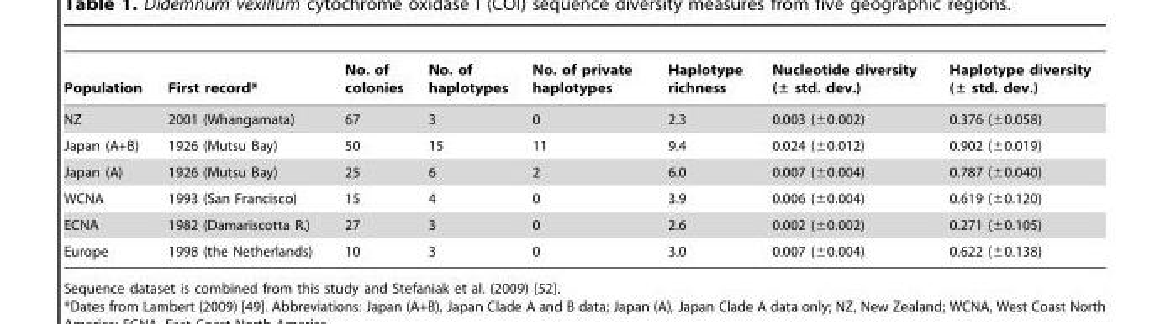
<table><thead><tr><td>Population</td><td>First record*</td><td>No. of colonies</td><td>No. of haplotypes</td><td>No. of private haplotypes</td><td>Haplotype richness</td><td>Nucleotide diversity (± std. dev.)</td><td>Haplotype diversity (± std. dev.)</td></tr></thead><tbody><tr><td>NZ</td><td>2001 (Whangamata)</td><td>67</td><td>3</td><td>0</td><td>2.3</td><td>0.003 (±0.002)</td><td>0.376 (±0.058)</td></tr><tr><td>Japan (A+B)</td><td>1926 (Mutsu Bay)</td><td>50</td><td>15</td><td>11</td><td>9.4</td><td>0.024 (±0.012)</td><td>0.902 (±0.019)</td></tr><tr><td>Japan (A)</td><td>1926 (Mutsu Bay)</td><td>25</td><td>6</td><td>2</td><td>6.0</td><td>0.007 (±0.004)</td><td>0.787 (±0.040)</td></tr><tr><td>WCNA</td><td>1993 (San Francisco)</td><td>15</td><td>4</td><td>0</td><td>3.9</td><td>0.006 (±0.004)</td><td>0.619 (±0.120)</td></tr><tr><td>ECNA</td><td>1982 (Damariscotta R.)</td><td>27</td><td>3</td><td>0</td><td>2.6</td><td>0.002 (±0.002)</td><td>0.271 (±0.105)</td></tr><tr><td>Europe</td><td>1998 (the Netherlands)</td><td>10</td><td>3</td><td>0</td><td>3.0</td><td>0.007 (±0.004)</td><td>0.622 (±0.138)</td></tr></tbody></table>